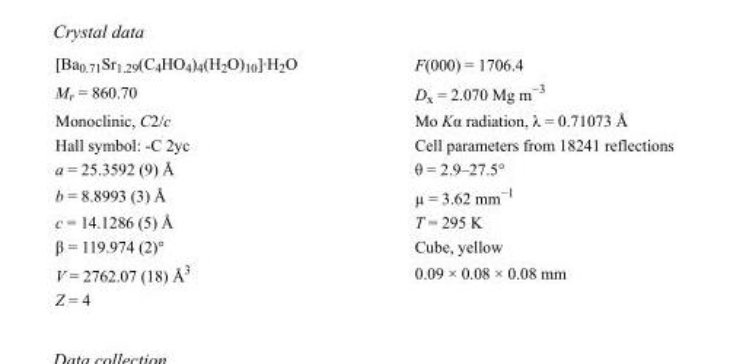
<table><tbody><tr><td>[Ba<sub>0.71</sub>Sr<sub>1.29</sub>(C<sub>4</sub>HO<sub>4</sub>)<sub>4</sub>(H<sub>2</sub>O)<sub>10</sub>]·H<sub>2</sub>O</td><td>F(000) = 1706.4</td></tr><tr><td>M<sub>r</sub> = 860.70</td><td>D<sub>x</sub> = 2.070 Mg m<sup>−3</sup></td></tr><tr><td>Monoclinic, C2/c</td><td>Mo Kα radiation, λ = 0.71073 Å</td></tr><tr><td>Hall symbol: -C 2yc</td><td>Cell parameters from 18241 reflections</td></tr><tr><td>a = 25.3592 (9) Å</td><td>θ = 2.9–27.5°</td></tr><tr><td>b = 8.8993 (3) Å</td><td>µ = 3.62 mm<sup>−1</sup></td></tr><tr><td>c = 14.1286 (5) Å</td><td>T = 295 K</td></tr><tr><td>β = 119.974 (2)°</td><td>Cube, yellow</td></tr><tr><td>V = 2762.07 (18) Å<sup>3</sup></td><td>0.09 × 0.08 × 0.08 mm</td></tr><tr><td>Z = 4</td><td></td></tr></tbody></table>